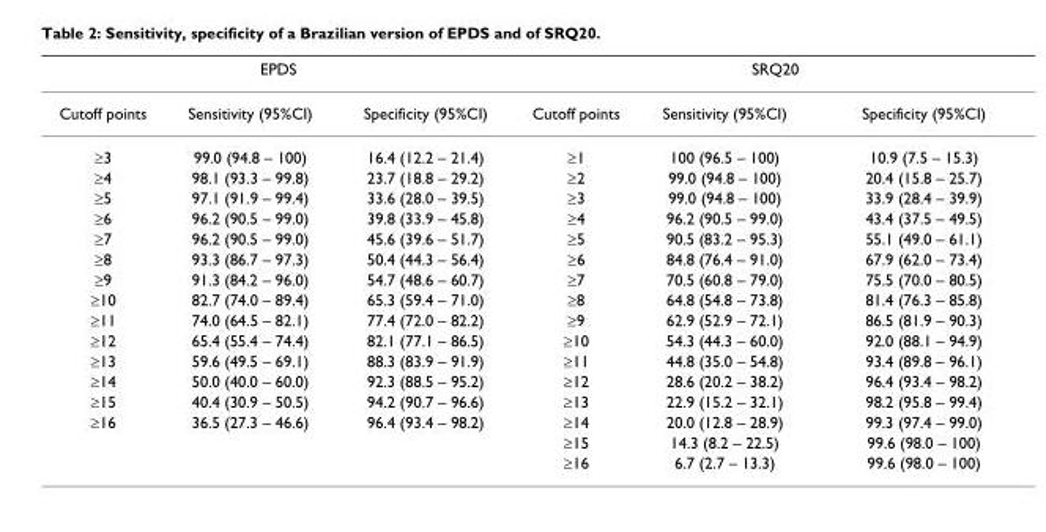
<table><thead><tr><td colspan="3">EPDS</td><td colspan="3">SRQ20</td></tr><tr><td>Cutoff points</td><td>Sensitivity (95%CI)</td><td>Specificity (95%CI)</td><td>Cutoff points</td><td>Sensitivity (95%CI)</td><td>Specificity (95%CI)</td></tr></thead><tbody><tr><td>≥3</td><td>99.0 (94.8 – 100)</td><td>16.4 (12.2 – 21.4)</td><td>≥1</td><td>100 (96.5 – 100)</td><td>10.9 (7.5 – 15.3)</td></tr><tr><td>≥4</td><td>98.1 (93.3 – 99.8)</td><td>23.7 (18.8 – 29.2)</td><td>≥2</td><td>99.0 (94.8 – 100)</td><td>20.4 (15.8 – 25.7)</td></tr><tr><td>≥5</td><td>97.1 (91.9 – 99.4)</td><td>33.6 (28.0 – 39.5)</td><td>≥3</td><td>99.0 (94.8 – 100)</td><td>33.9 (28.4 – 39.9)</td></tr><tr><td>≥6</td><td>96.2 (90.5 – 99.0)</td><td>39.8 (33.9 – 45.8)</td><td>≥4</td><td>96.2 (90.5 – 99.0)</td><td>43.4 (37.5 – 49.5)</td></tr><tr><td>≥7</td><td>96.2 (90.5 – 99.0)</td><td>45.6 (39.6 – 51.7)</td><td>≥5</td><td>90.5 (83.2 – 95.3)</td><td>55.1 (49.0 – 61.1)</td></tr><tr><td>≥8</td><td>93.3 (86.7 – 97.3)</td><td>50.4 (44.3 – 56.4)</td><td>≥6</td><td>84.8 (76.4 – 91.0)</td><td>67.9 (62.0 – 73.4)</td></tr><tr><td>≥9</td><td>91.3 (84.2 – 96.0)</td><td>54.7 (48.6 – 60.7)</td><td>≥7</td><td>70.5 (60.8 – 79.0)</td><td>75.5 (70.0 – 80.5)</td></tr><tr><td>≥10</td><td>82.7 (74.0 – 89.4)</td><td>65.3 (59.4 – 71.0)</td><td>≥8</td><td>64.8 (54.8 – 73.8)</td><td>81.4 (76.3 – 85.8)</td></tr><tr><td>≥11</td><td>74.0 (64.5 – 82.1)</td><td>77.4 (72.0 – 82.2)</td><td>≥9</td><td>62.9 (52.9 – 72.1)</td><td>86.5 (81.9 – 90.3)</td></tr><tr><td>≥12</td><td>65.4 (55.4 – 74.4)</td><td>82.1 (77.1 – 86.5)</td><td>≥10</td><td>54.3 (44.3 – 60.0)</td><td>92.0 (88.1 – 94.9)</td></tr><tr><td>≥13</td><td>59.6 (49.5 – 69.1)</td><td>88.3 (83.9 – 91.9)</td><td>≥11</td><td>44.8 (35.0 – 54.8)</td><td>93.4 (89.8 – 96.1)</td></tr><tr><td>≥14</td><td>50.0 (40.0 – 60.0)</td><td>92.3 (88.5 – 95.2)</td><td>≥12</td><td>28.6 (20.2 – 38.2)</td><td>96.4 (93.4 – 98.2)</td></tr><tr><td>≥15</td><td>40.4 (30.9 – 50.5)</td><td>94.2 (90.7 – 96.6)</td><td>≥13</td><td>22.9 (15.2 – 32.1)</td><td>98.2 (95.8 – 99.4)</td></tr><tr><td rowspan="3">≥16</td><td>36.5 (27.3 – 46.6)</td><td>96.4 (93.4 – 98.2)</td><td>≥14</td><td>20.0 (12.8 – 28.9)</td><td>99.3 (97.4 – 99.0)</td></tr><tr><td></td><td></td><td>≥15</td><td>14.3 (8.2 – 22.5)</td><td>99.6 (98.0 – 100)</td></tr><tr><td></td><td></td><td>≥16</td><td>6.7 (2.7 – 13.3)</td><td>99.6 (98.0 – 100)</td></tr></tbody></table>